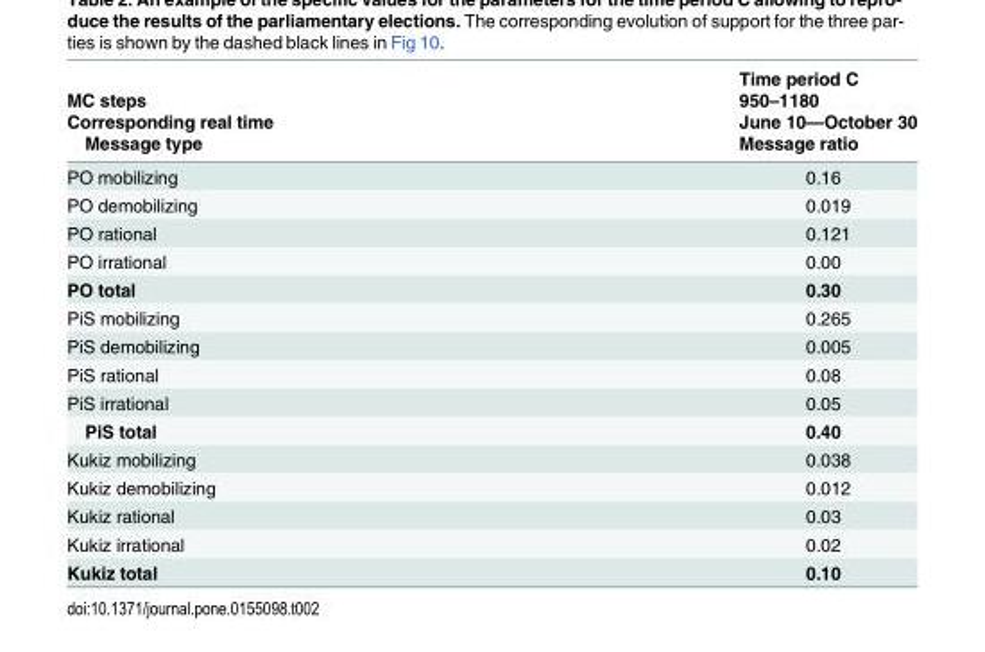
<table><thead><tr><td rowspan="4">MC steps Corresponding real time Message type</td><td rowspan="4">Time period C 950–1180 June 10—October 30 Message ratio</td></tr><tr></tr><tr></tr><tr></tr></thead><tbody><tr><td>PO mobilizing</td><td>0.16</td></tr><tr><td>PO demobilizing</td><td>0.019</td></tr><tr><td>PO rational</td><td>0.121</td></tr><tr><td>PO irrational</td><td>0.00</td></tr><tr><td>PO total</td><td>0.30</td></tr><tr><td>PiS mobilizing</td><td>0.265</td></tr><tr><td>PiS demobilizing</td><td>0.005</td></tr><tr><td>PiS rational</td><td>0.08</td></tr><tr><td>PiS irrational</td><td>0.05</td></tr><tr><td>PiS total</td><td>0.40</td></tr><tr><td>Kukiz mobilizing</td><td>0.038</td></tr><tr><td>Kukiz demobilizing</td><td>0.012</td></tr><tr><td>Kukiz rational</td><td>0.03</td></tr><tr><td>Kukiz irrational</td><td>0.02</td></tr><tr><td>Kukiz total</td><td>0.10</td></tr></tbody></table>